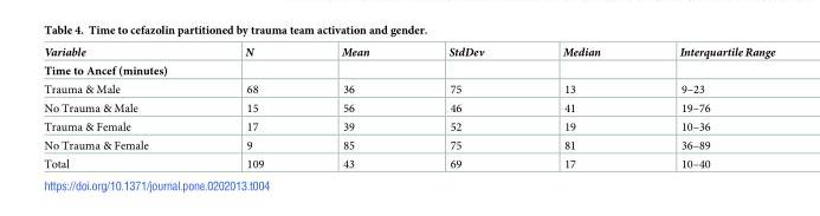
<table><thead><tr><td>Variable</td><td>N</td><td>Mean</td><td>StdDev</td><td>Median</td><td>Interquartile Range</td></tr></thead><tbody><tr><td colspan="6">Time to Ancef (minutes)</td></tr><tr><td>Trauma &amp; Male</td><td>68</td><td>36</td><td>75</td><td>13</td><td>9–23</td></tr><tr><td>No Trauma &amp; Male</td><td>15</td><td>56</td><td>46</td><td>41</td><td>19–76</td></tr><tr><td>Trauma &amp; Female</td><td>17</td><td>39</td><td>52</td><td>19</td><td>10–36</td></tr><tr><td>No Trauma &amp; Female</td><td>9</td><td>85</td><td>75</td><td>81</td><td>36–89</td></tr><tr><td>Total</td><td>109</td><td>43</td><td>69</td><td>17</td><td>10–40</td></tr></tbody></table>